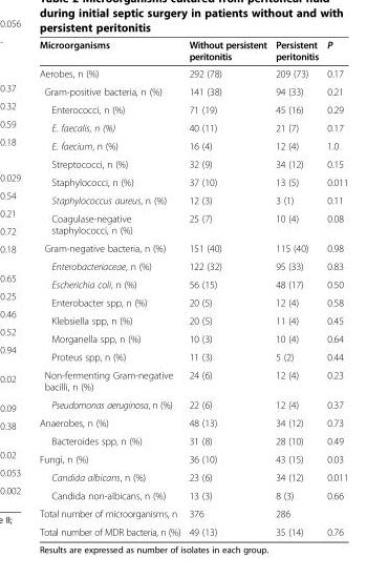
<table><thead><tr><td>Microorganisms</td><td>Without persistent peritonitis</td><td>Persistent peritonitis</td><td>P</td></tr></thead><tbody><tr><td>Aerobes, n (%)</td><td>292 (78)</td><td>209 (73)</td><td>0.17</td></tr><tr><td>Gram-positive bacteria, n (%)</td><td>141 (38)</td><td>94 (33)</td><td>0.21</td></tr><tr><td>Enterococci, n (%)</td><td>71 (19)</td><td>45 (16)</td><td>0.29</td></tr><tr><td>E. faecalis, n (%)</td><td>40 (11)</td><td>21 (7)</td><td>0.17</td></tr><tr><td>E. faecium, n (%)</td><td>16 (4)</td><td>12 (4)</td><td>1.0</td></tr><tr><td>Streptococci, n (%)</td><td>32 (9)</td><td>34 (12)</td><td>0.15</td></tr><tr><td>Staphylococci, n (%)</td><td>37 (10)</td><td>13 (5)</td><td>0.011</td></tr><tr><td>Staphylococcus aureus, n (%)</td><td>12 (3)</td><td>3 (1)</td><td>0.11</td></tr><tr><td>Coagulase-negative staphylococci, n (%)</td><td>25 (7)</td><td>10 (4)</td><td>0.08</td></tr><tr><td>Gram-negative bacteria, n (%)</td><td>151 (40)</td><td>115 (40)</td><td>0.98</td></tr><tr><td>Enterobacteriaceae, n (%)</td><td>122 (32)</td><td>95 (33)</td><td>0.83</td></tr><tr><td>Escherichia coli, n (%)</td><td>56 (15)</td><td>48 (17)</td><td>0.50</td></tr><tr><td>Enterobacter spp, n (%)</td><td>20 (5)</td><td>12 (4)</td><td>0.58</td></tr><tr><td>Klebsiella spp, n (%)</td><td>20 (5)</td><td>11 (4)</td><td>0.45</td></tr><tr><td>Morganella spp, n (%)</td><td>10 (3)</td><td>10 (4)</td><td>0.64</td></tr><tr><td>Proteus spp, n (%)</td><td>11 (3)</td><td>5 (2)</td><td>0.44</td></tr><tr><td>Non-fermenting Gram-negative bacilli, n (%)</td><td>24 (6)</td><td>12 (4)</td><td>0.23</td></tr><tr><td>Pseudomonas aeruginosa, n (%)</td><td>22 (6)</td><td>12 (4)</td><td>0.37</td></tr><tr><td>Anaerobes, n (%)</td><td>48 (13)</td><td>34 (12)</td><td>0.73</td></tr><tr><td>Bacteroides spp, n (%)</td><td>31 (8)</td><td>28 (10)</td><td>0.49</td></tr><tr><td>Fungi, n (%)</td><td>36 (10)</td><td>43 (15)</td><td>0.03</td></tr><tr><td>Candida albicans, n (%)</td><td>23 (6)</td><td>34 (12)</td><td>0.011</td></tr><tr><td>Candida non-albicans, n (%)</td><td>13 (3)</td><td>8 (3)</td><td>0.66</td></tr><tr><td>Total number of microorganisms, n</td><td>376</td><td>286</td><td></td></tr><tr><td>Total number of MDR bacteria, n (%)</td><td>49 (13)</td><td>35 (14)</td><td>0.76</td></tr></tbody></table>